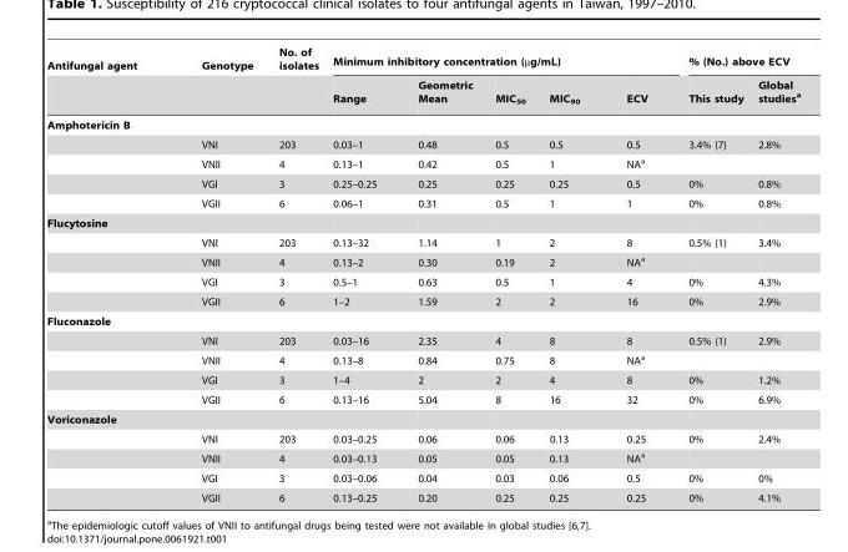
<table><thead><tr><td rowspan="2">Antifungal agent</td><td rowspan="2">Genotype</td><td rowspan="2">No. of isolates</td><td colspan="5">Minimum inhibitory concentration (µg/mL)</td><td colspan="2">% (No.) above ECV</td></tr><tr><td>Range</td><td>Geometric Mean</td><td>MIC<sub>50</sub></td><td>MIC<sub>90</sub></td><td>ECV</td><td>This study</td><td>Global studies<sup>a</sup></td></tr></thead><tbody><tr><td colspan="10">Amphotericin B</td></tr><tr><td></td><td>VNI</td><td>203</td><td>0.03–1</td><td>0.48</td><td>0.5</td><td>0.5</td><td>0.5</td><td>3.4% (7)</td><td>2.8%</td></tr><tr><td></td><td>VNII</td><td>4</td><td>0.13–1</td><td>0.42</td><td>0.5</td><td>1</td><td>NA<sup>a</sup></td><td></td><td></td></tr><tr><td></td><td>VGI</td><td>3</td><td>0.25–0.25</td><td>0.25</td><td>0.25</td><td>0.25</td><td>0.5</td><td>0%</td><td>0.8%</td></tr><tr><td></td><td>VGII</td><td>6</td><td>0.06–1</td><td>0.31</td><td>0.5</td><td>1</td><td>1</td><td>0%</td><td>0.8%</td></tr><tr><td colspan="10">Flucytosine</td></tr><tr><td></td><td>VNI</td><td>203</td><td>0.13–32</td><td>1.14</td><td>1</td><td>2</td><td>8</td><td>0.5% (1)</td><td>3.4%</td></tr><tr><td></td><td>VNII</td><td>4</td><td>0.13–2</td><td>0.30</td><td>0.19</td><td>2</td><td>NA<sup>a</sup></td><td></td><td></td></tr><tr><td></td><td>VGI</td><td>3</td><td>0.5–1</td><td>0.63</td><td>0.5</td><td>1</td><td>4</td><td>0%</td><td>4.3%</td></tr><tr><td></td><td>VGII</td><td>6</td><td>1–2</td><td>1.59</td><td>2</td><td>2</td><td>16</td><td>0%</td><td>2.9%</td></tr><tr><td colspan="10">Fluconazole</td></tr><tr><td></td><td>VNI</td><td>203</td><td>0.03–16</td><td>2.35</td><td>4</td><td>8</td><td>8</td><td>0.5% (1)</td><td>2.9%</td></tr><tr><td></td><td>VNII</td><td>4</td><td>0.13–8</td><td>0.84</td><td>0.75</td><td>8</td><td>NA<sup>a</sup></td><td></td><td></td></tr><tr><td></td><td>VGI</td><td>3</td><td>1–4</td><td>2</td><td>2</td><td>4</td><td>8</td><td>0%</td><td>1.2%</td></tr><tr><td></td><td>VGII</td><td>6</td><td>0.13–16</td><td>5.04</td><td>8</td><td>16</td><td>32</td><td>0%</td><td>6.9%</td></tr><tr><td colspan="10">Voriconazole</td></tr><tr><td></td><td>VNI</td><td>203</td><td>0.03–0.25</td><td>0.06</td><td>0.06</td><td>0.13</td><td>0.25</td><td>0%</td><td>2.4%</td></tr><tr><td></td><td>VNII</td><td>4</td><td>0.03–0.13</td><td>0.05</td><td>0.05</td><td>0.13</td><td>NA<sup>a</sup></td><td></td><td></td></tr><tr><td></td><td>VGI</td><td>3</td><td>0.03–0.06</td><td>0.04</td><td>0.03</td><td>0.06</td><td>0.5</td><td>0%</td><td>0%</td></tr><tr><td></td><td>VGII</td><td>6</td><td>0.13–0.25</td><td>0.20</td><td>0.25</td><td>0.25</td><td>0.25</td><td>0%</td><td>4.1%</td></tr></tbody></table>